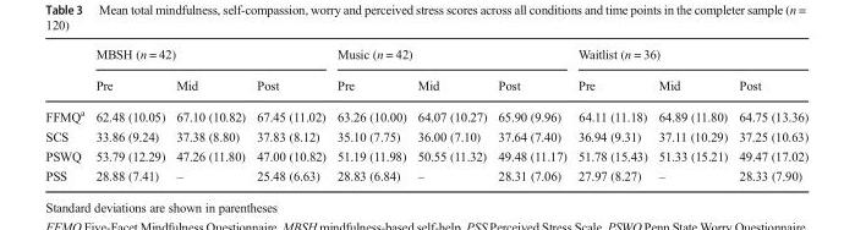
<table><thead><tr><td rowspan="2"></td><td colspan="3">MBSH (n = 42)</td><td colspan="3">Music (n = 42)</td><td colspan="3">Waitlist (n = 36)</td></tr><tr><td>Pre</td><td>Mid</td><td>Post</td><td>Pre</td><td>Mid</td><td>Post</td><td>Pre</td><td>Mid</td><td>Post</td></tr></thead><tbody><tr><td>FFMQ<sup>a</sup></td><td>62.48 (10.05)</td><td>67.10 (10.82)</td><td>67.45 (11.02)</td><td>63.26 (10.00)</td><td>64.07 (10.27)</td><td>65.90 (9.96)</td><td>64.11 (11.18)</td><td>64.89 (11.80)</td><td>64.75 (13.36)</td></tr><tr><td>SCS</td><td>33.86 (9.24)</td><td>37.38 (8.80)</td><td>37.83 (8.12)</td><td>35.10 (7.75)</td><td>36.00 (7.10)</td><td>37.64 (7.40)</td><td>36.94 (9.31)</td><td>37.11 (10.29)</td><td>37.25 (10.63)</td></tr><tr><td>PSWQ</td><td>53.79 (12.29)</td><td>47.26 (11.80)</td><td>47.00 (10.82)</td><td>51.19 (11.98)</td><td>50.55 (11.32)</td><td>49.48 (11.17)</td><td>51.78 (15.43)</td><td>51.33 (15.21)</td><td>49.47 (17.02)</td></tr><tr><td>PSS</td><td>28.88 (7.41)</td><td>–</td><td>25.48 (6.63)</td><td>28.83 (6.84)</td><td>–</td><td>28.31 (7.06)</td><td>27.97 (8.27)</td><td>–</td><td>28.33 (7.90)</td></tr></tbody></table>